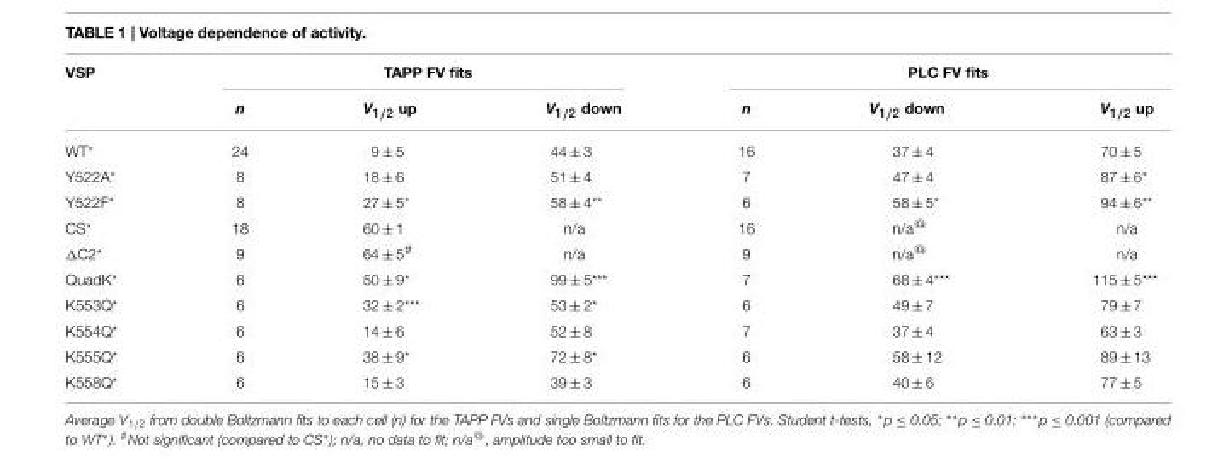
<table><thead><tr><td rowspan="2">VSP</td><td colspan="3">TAPP FV fits</td><td colspan="3">PLC FV fits</td></tr><tr><td>n</td><td>V<sub>1/2</sub> up</td><td>V<sub>1/2</sub> down</td><td>n</td><td>V<sub>1/2</sub> down</td><td>V<sub>1/2</sub> up</td></tr></thead><tbody><tr><td>WT*</td><td>24</td><td>9 ± 5</td><td>44 ± 3</td><td>16</td><td>37 ± 4</td><td>70 ± 5</td></tr><tr><td>Y522A*</td><td>8</td><td>18 ± 6</td><td>51 ± 4</td><td>7</td><td>47 ± 4</td><td>87 ± 6*</td></tr><tr><td>Y522F*</td><td>8</td><td>27 ± 5*</td><td>58 ± 4**</td><td>6</td><td>58 ± 5*</td><td>94 ± 6**</td></tr><tr><td>CS*</td><td>18</td><td>60 ± 1</td><td>n/a</td><td>16</td><td>n/a<sup>@</sup></td><td>n/a</td></tr><tr><td>ΔC2*</td><td>9</td><td>64 ± 5<sup>#</sup></td><td>n/a</td><td>9</td><td>n/a<sup>@</sup></td><td>n/a</td></tr><tr><td>QuadK*</td><td>6</td><td>50 ± 9*</td><td>99 ± 5***</td><td>7</td><td>68 ± 4***</td><td>115 ± 5***</td></tr><tr><td>K553Q*</td><td>6</td><td>32 ± 2***</td><td>53 ± 2*</td><td>6</td><td>49 ± 7</td><td>79 ± 7</td></tr><tr><td>K554Q*</td><td>6</td><td>14 ± 6</td><td>52 ± 8</td><td>7</td><td>37 ± 4</td><td>63 ± 3</td></tr><tr><td>K555Q*</td><td>6</td><td>38 ± 9*</td><td>72 ± 8*</td><td>6</td><td>58 ± 12</td><td>89 ± 13</td></tr><tr><td>K558Q*</td><td>6</td><td>15 ± 3</td><td>39 ± 3</td><td>6</td><td>40 ± 6</td><td>77 ± 5</td></tr></tbody></table>